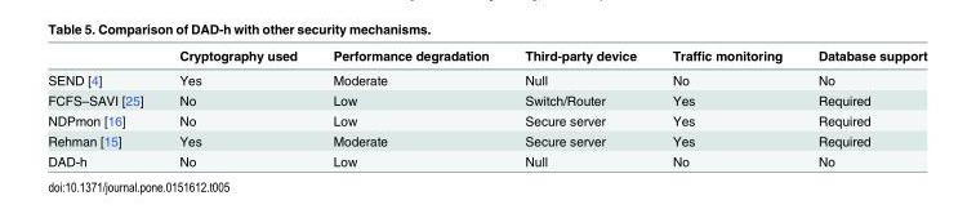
<table><thead><tr><td></td><td>Cryptography used</td><td>Performance degradation</td><td>Third-party device</td><td>Traffic monitoring</td><td>Database support</td></tr></thead><tbody><tr><td>SEND [4]</td><td>Yes</td><td>Moderate</td><td>Null</td><td>No</td><td>No</td></tr><tr><td>FCFS–SAVI [25]</td><td>No</td><td>Low</td><td>Switch/Router</td><td>Yes</td><td>Required</td></tr><tr><td>NDPmon [16]</td><td>No</td><td>Low</td><td>Secure server</td><td>Yes</td><td>Required</td></tr><tr><td>Rehman [15]</td><td>Yes</td><td>Moderate</td><td>Secure server</td><td>Yes</td><td>Required</td></tr><tr><td>DAD-h</td><td>No</td><td>Low</td><td>Null</td><td>No</td><td>No</td></tr></tbody></table>